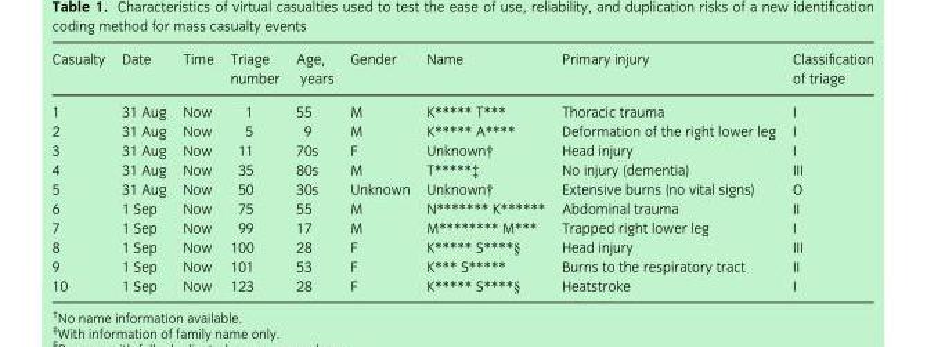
<table><thead><tr><td>Casualty</td><td>Date</td><td>Time</td><td>Triage number</td><td>Age, years</td><td>Gender</td><td>Name</td><td>Primary injury</td><td>Classification of triage</td></tr></thead><tbody><tr><td>1</td><td>31 Aug</td><td>Now</td><td>1</td><td>55</td><td>M</td><td>K***** T***</td><td>Thoracic trauma</td><td>I</td></tr><tr><td>2</td><td>31 Aug</td><td>Now</td><td>5</td><td>9</td><td>M</td><td>K***** A****</td><td>Deformation of the right lower leg</td><td>I</td></tr><tr><td>3</td><td>31 Aug</td><td>Now</td><td>11</td><td>70s</td><td>F</td><td>Unknown†</td><td>Head injury</td><td>I</td></tr><tr><td>4</td><td>31 Aug</td><td>Now</td><td>35</td><td>80s</td><td>M</td><td>T*****‡</td><td>No injury (dementia)</td><td>III</td></tr><tr><td>5</td><td>31 Aug</td><td>Now</td><td>50</td><td>30s</td><td>Unknown</td><td>Unknown†</td><td>Extensive burns (no vital signs)</td><td>O</td></tr><tr><td>6</td><td>1 Sep</td><td>Now</td><td>75</td><td>55</td><td>M</td><td>N******* K******</td><td>Abdominal trauma</td><td>II</td></tr><tr><td>7</td><td>1 Sep</td><td>Now</td><td>99</td><td>17</td><td>M</td><td>M******** M***</td><td>Trapped right lower leg</td><td>I</td></tr><tr><td>8</td><td>1 Sep</td><td>Now</td><td>100</td><td>28</td><td>F</td><td>K***** S****§</td><td>Head injury</td><td>III</td></tr><tr><td>9</td><td>1 Sep</td><td>Now</td><td>101</td><td>53</td><td>F</td><td>K*** S*****</td><td>Burns to the respiratory tract</td><td>II</td></tr><tr><td>10</td><td>1 Sep</td><td>Now</td><td>123</td><td>28</td><td>F</td><td>K***** S****§</td><td>Heatstroke</td><td>I</td></tr></tbody></table>